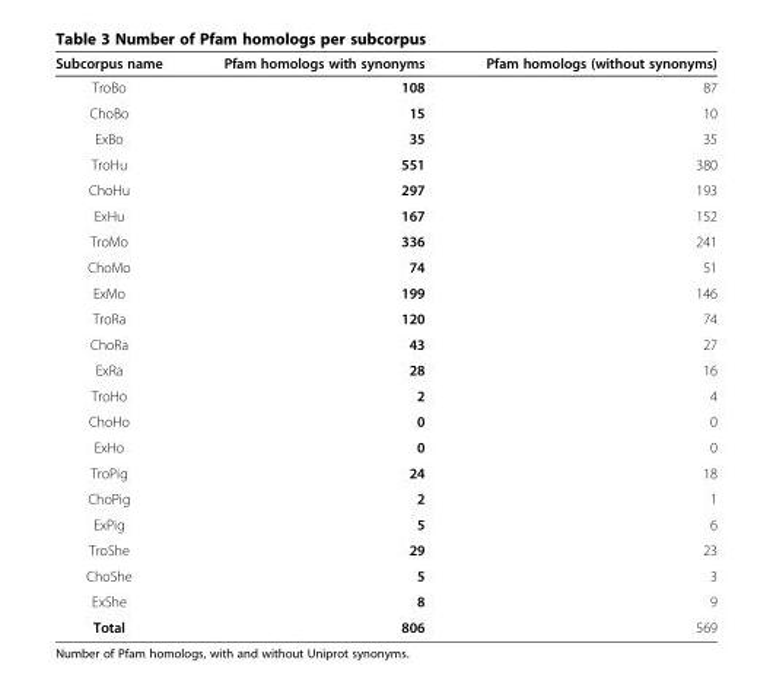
<table><thead><tr><td>Subcorpus name</td><td>Pfam homologs with synonyms</td><td>Pfam homologs (without synonyms)</td></tr></thead><tbody><tr><td>TroBo</td><td>108</td><td>87</td></tr><tr><td>ChoBo</td><td>15</td><td>10</td></tr><tr><td>ExBo</td><td>35</td><td>35</td></tr><tr><td>TroHu</td><td>551</td><td>380</td></tr><tr><td>ChoHu</td><td>297</td><td>193</td></tr><tr><td>ExHu</td><td>167</td><td>152</td></tr><tr><td>TroMo</td><td>336</td><td>241</td></tr><tr><td>ChoMo</td><td>74</td><td>51</td></tr><tr><td>ExMo</td><td>199</td><td>146</td></tr><tr><td>TroRa</td><td>120</td><td>74</td></tr><tr><td>ChoRa</td><td>43</td><td>27</td></tr><tr><td>ExRa</td><td>28</td><td>16</td></tr><tr><td>TroHo</td><td>2</td><td>4</td></tr><tr><td>ChoHo</td><td>0</td><td>0</td></tr><tr><td>ExHo</td><td>0</td><td>0</td></tr><tr><td>TroPig</td><td>24</td><td>18</td></tr><tr><td>ChoPig</td><td>2</td><td>1</td></tr><tr><td>ExPig</td><td>5</td><td>6</td></tr><tr><td>TroShe</td><td>29</td><td>23</td></tr><tr><td>ChoShe</td><td>5</td><td>3</td></tr><tr><td>ExShe</td><td>8</td><td>9</td></tr><tr><td>Total</td><td>806</td><td>569</td></tr></tbody></table>